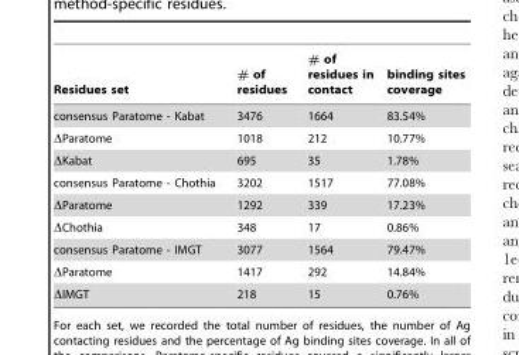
<table><thead><tr><td>Residues set</td><td># of residues</td><td># of residues in contact</td><td>binding sites coverage</td></tr></thead><tbody><tr><td>consensus Paratome - Kabat</td><td>3476</td><td>1664</td><td>83.54%</td></tr><tr><td>ΔParatome</td><td>1018</td><td>212</td><td>10.77%</td></tr><tr><td>ΔKabat</td><td>695</td><td>35</td><td>1.78%</td></tr><tr><td>consensus Paratome - Chothia</td><td>3202</td><td>1517</td><td>77.08%</td></tr><tr><td>ΔParatome</td><td>1292</td><td>339</td><td>17.23%</td></tr><tr><td>ΔChothia</td><td>348</td><td>17</td><td>0.86%</td></tr><tr><td>consensus Paratome - IMGT</td><td>3077</td><td>1564</td><td>79.47%</td></tr><tr><td>ΔParatome</td><td>1417</td><td>292</td><td>14.84%</td></tr><tr><td>ΔIMGT</td><td>218</td><td>15</td><td>0.76%</td></tr></tbody></table>